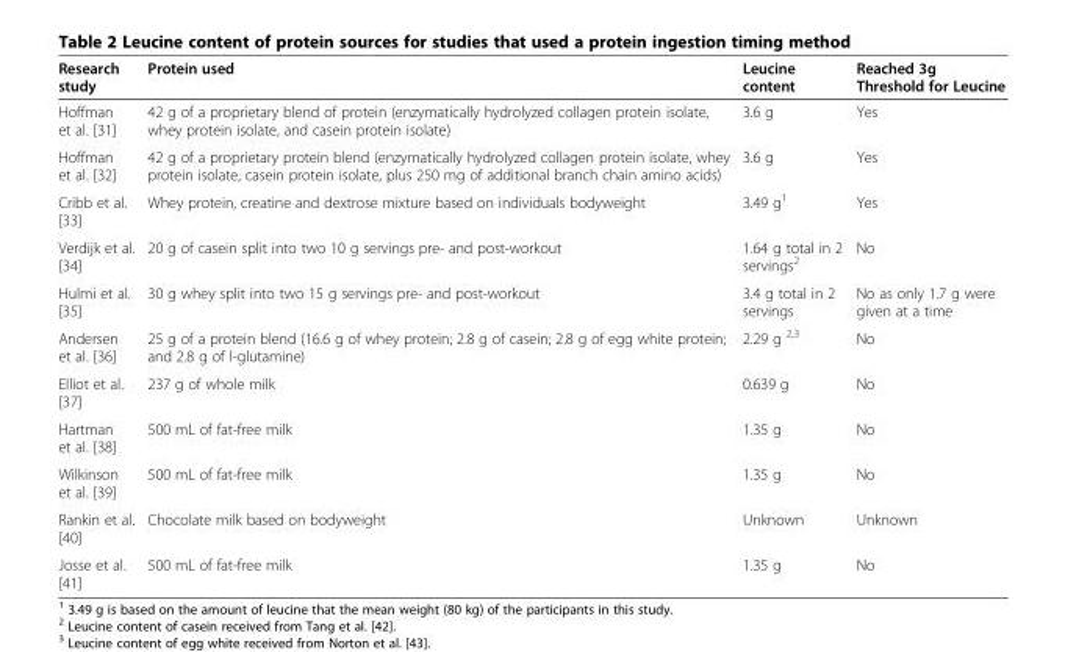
<table><thead><tr><td>Research study</td><td>Protein used</td><td>Leucine content</td><td>Reached 3g Threshold for Leucine</td></tr></thead><tbody><tr><td>Hoffman et al. [31]</td><td>42 g of a proprietary blend of protein (enzymatically hydrolyzed collagen protein isolate, whey protein isolate, and casein protein isolate)</td><td>3.6 g</td><td>Yes</td></tr><tr><td>Hoffman et al. [32]</td><td>42 g of a proprietary protein blend (enzymatically hydrolyzed collagen protein isolate, whey protein isolate, casein protein isolate, plus 250 mg of additional branch chain amino acids)</td><td>3.6 g</td><td>Yes</td></tr><tr><td>Cribb et al. [33]</td><td>Whey protein, creatine and dextrose mixture based on individuals bodyweight</td><td>3.49 g<sup>1</sup></td><td>Yes</td></tr><tr><td>Verdijk et al. [34]</td><td>20 g of casein split into two 10 g servings pre- and post-workout</td><td>1.64 g total in 2 servings<sup>2</sup></td><td>No</td></tr><tr><td>Hulmi et al. [35]</td><td>30 g whey split into two 15 g servings pre- and post-workout</td><td>3.4 g total in 2 servings</td><td>No as only 1.7 g were given at a time</td></tr><tr><td>Andersen et al. [36]</td><td>25 g of a protein blend (16.6 g of whey protein; 2.8 g of casein; 2.8 g of egg white protein; and 2.8 g of l-glutamine)</td><td>2.29 g <sup>2,3</sup></td><td>No</td></tr><tr><td>Elliot et al. [37]</td><td>237 g of whole milk</td><td>0.639 g</td><td>No</td></tr><tr><td>Hartman et al. [38]</td><td>500 mL of fat-free milk</td><td>1.35 g</td><td>No</td></tr><tr><td>Wilkinson et al. [39]</td><td>500 mL of fat-free milk</td><td>1.35 g</td><td>No</td></tr><tr><td>Rankin et al. [40]</td><td>Chocolate milk based on bodyweight</td><td>Unknown</td><td>Unknown</td></tr><tr><td>Josse et al. [41]</td><td>500 mL of fat-free milk</td><td>1.35 g</td><td>No</td></tr></tbody></table>